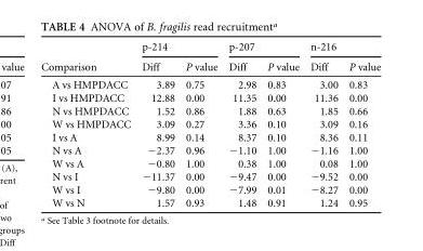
<table><thead><tr><td rowspan="2">Comparison</td><td colspan="2">p-214</td><td colspan="2">p-207</td><td colspan="2">n-216</td></tr><tr><td>Diff</td><td>P value</td><td>Diff</td><td>P value</td><td>Diff</td><td>P value</td></tr></thead><tbody><tr><td>A vs HMPDACC</td><td>3.89</td><td>0.75</td><td>2.98</td><td>0.83</td><td>3.00</td><td>0.83</td></tr><tr><td>I vs HMPDACC</td><td>12.88</td><td>0.00</td><td>11.35</td><td>0.00</td><td>11.36</td><td>0.00</td></tr><tr><td>N vs HMPDACC</td><td>1.52</td><td>0.86</td><td>1.88</td><td>0.63</td><td>1.85</td><td>0.66</td></tr><tr><td>W vs HMPDACC</td><td>3.09</td><td>0.27</td><td>3.36</td><td>0.10</td><td>3.09</td><td>0.16</td></tr><tr><td>I vs A</td><td>8.99</td><td>0.14</td><td>8.37</td><td>0.10</td><td>8.36</td><td>0.11</td></tr><tr><td>N vs A</td><td>−2.37</td><td>0.96</td><td>−1.10</td><td>1.00</td><td>−1.16</td><td>1.00</td></tr><tr><td>W vs A</td><td>−0.80</td><td>1.00</td><td>0.38</td><td>1.00</td><td>0.08</td><td>1.00</td></tr><tr><td>N vs I</td><td>−11.37</td><td>0.00</td><td>−9.47</td><td>0.00</td><td>−9.52</td><td>0.00</td></tr><tr><td>W vs I</td><td>−9.80</td><td>0.00</td><td>−7.99</td><td>0.01</td><td>−8.27</td><td>0.00</td></tr><tr><td>W vs N</td><td>1.57</td><td>0.93</td><td>1.48</td><td>0.91</td><td>1.24</td><td>0.95</td></tr></tbody></table>